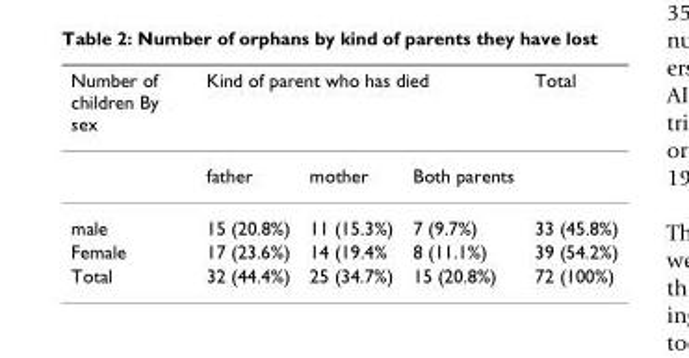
<table><thead><tr><td rowspan="2">Number of children By sex</td><td colspan="3">Kind of parent who has died</td><td rowspan="2">Total</td></tr><tr><td>father</td><td>mother</td><td>Both parents</td></tr></thead><tbody><tr><td>male</td><td>15 (20.8%)</td><td>11 (15.3%)</td><td>7 (9.7%)</td><td>33 (45.8%)</td></tr><tr><td>Female</td><td>17 (23.6%)</td><td>14 (19.4%</td><td>8 (11.1%)</td><td>39 (54.2%)</td></tr><tr><td>Total</td><td>32 (44.4%)</td><td>25 (34.7%)</td><td>15 (20.8%)</td><td>72 (100%)</td></tr></tbody></table>